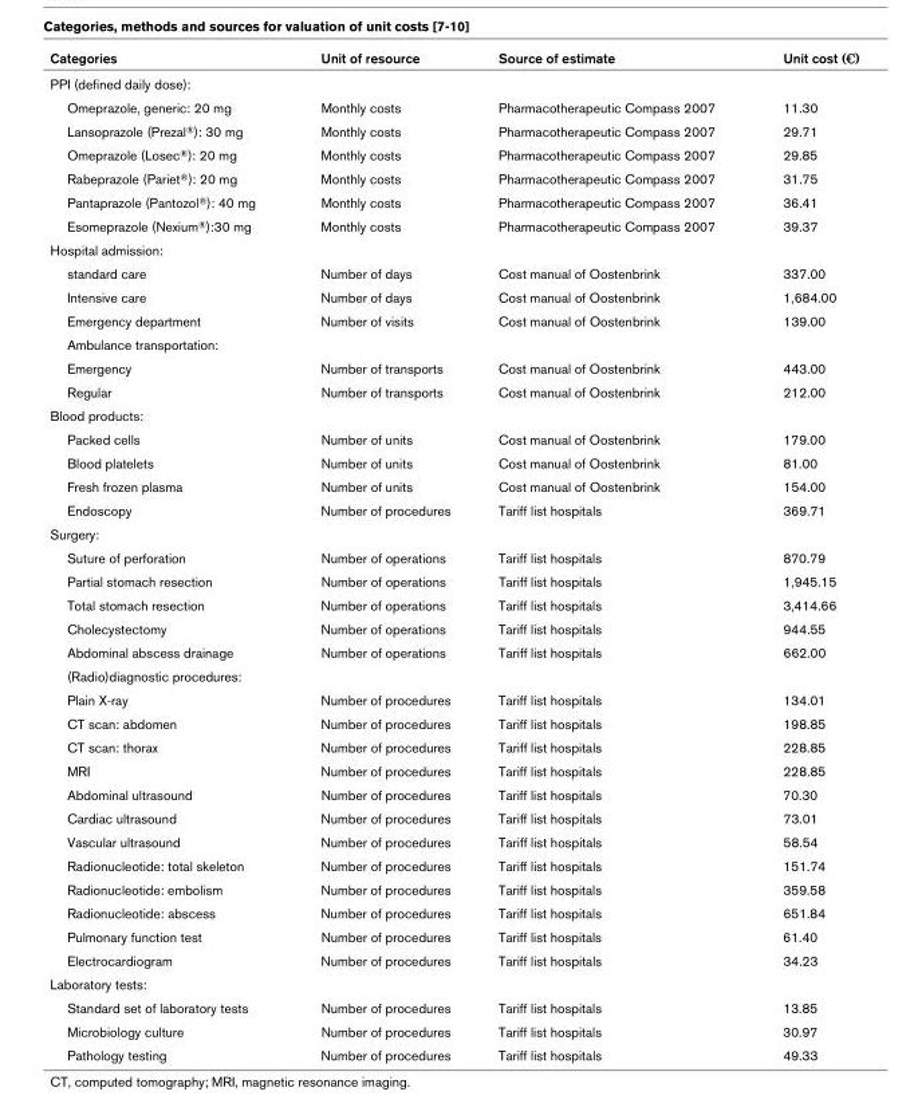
<table><thead><tr><td>Categories</td><td>Unit of resource</td><td>Source of estimate</td><td>Unit cost (€)</td></tr></thead><tbody><tr><td colspan="4">PPI (defined daily dose):</td></tr><tr><td>Omeprazole, generic: 20 mg</td><td>Monthly costs</td><td>Pharmacotherapeutic Compass 2007</td><td>11.30</td></tr><tr><td>Lansoprazole (Prezal<sup>®</sup>): 30 mg</td><td>Monthly costs</td><td>Pharmacotherapeutic Compass 2007</td><td>29.71</td></tr><tr><td>Omeprazole (Losec<sup>®</sup>): 20 mg</td><td>Monthly costs</td><td>Pharmacotherapeutic Compass 2007</td><td>29.85</td></tr><tr><td>Rabeprazole (Pariet<sup>®</sup>): 20 mg</td><td>Monthly costs</td><td>Pharmacotherapeutic Compass 2007</td><td>31.75</td></tr><tr><td>Pantaprazole (Pantozol<sup>®</sup>): 40 mg</td><td>Monthly costs</td><td>Pharmacotherapeutic Compass 2007</td><td>36.41</td></tr><tr><td>Esomeprazole (Nexium<sup>®</sup>):30 mg</td><td>Monthly costs</td><td>Pharmacotherapeutic Compass 2007</td><td>39.37</td></tr><tr><td colspan="4">Hospital admission:</td></tr><tr><td>standard care</td><td>Number of days</td><td>Cost manual of Oostenbrink</td><td>337.00</td></tr><tr><td>Intensive care</td><td>Number of days</td><td>Cost manual of Oostenbrink</td><td>1,684.00</td></tr><tr><td>Emergency department</td><td>Number of visits</td><td>Cost manual of Oostenbrink</td><td>139.00</td></tr><tr><td colspan="4">Ambulance transportation:</td></tr><tr><td>Emergency</td><td>Number of transports</td><td>Cost manual of Oostenbrink</td><td>443.00</td></tr><tr><td>Regular</td><td>Number of transports</td><td>Cost manual of Oostenbrink</td><td>212.00</td></tr><tr><td colspan="4">Blood products:</td></tr><tr><td>Packed cells</td><td>Number of units</td><td>Cost manual of Oostenbrink</td><td>179.00</td></tr><tr><td>Blood platelets</td><td>Number of units</td><td>Cost manual of Oostenbrink</td><td>81.00</td></tr><tr><td>Fresh frozen plasma</td><td>Number of units</td><td>Cost manual of Oostenbrink</td><td>154.00</td></tr><tr><td>Endoscopy</td><td>Number of procedures</td><td>Tariff list hospitals</td><td>369.71</td></tr><tr><td colspan="4">Surgery:</td></tr><tr><td>Suture of perforation</td><td>Number of operations</td><td>Tariff list hospitals</td><td>870.79</td></tr><tr><td>Partial stomach resection</td><td>Number of operations</td><td>Tariff list hospitals</td><td>1,945.15</td></tr><tr><td>Total stomach resection</td><td>Number of operations</td><td>Tariff list hospitals</td><td>3,414.66</td></tr><tr><td>Cholecystectomy</td><td>Number of operations</td><td>Tariff list hospitals</td><td>944.55</td></tr><tr><td>Abdominal abscess drainage</td><td>Number of operations</td><td>Tariff list hospitals</td><td>662.00</td></tr><tr><td colspan="4">(Radio)diagnostic procedures:</td></tr><tr><td>Plain X-ray</td><td>Number of procedures</td><td>Tariff list hospitals</td><td>134.01</td></tr><tr><td>CT scan: abdomen</td><td>Number of procedures</td><td>Tariff list hospitals</td><td>198.85</td></tr><tr><td>CT scan: thorax</td><td>Number of procedures</td><td>Tariff list hospitals</td><td>228.85</td></tr><tr><td>MRI</td><td>Number of procedures</td><td>Tariff list hospitals</td><td>228.85</td></tr><tr><td>Abdominal ultrasound</td><td>Number of procedures</td><td>Tariff list hospitals</td><td>70.30</td></tr><tr><td>Cardiac ultrasound</td><td>Number of procedures</td><td>Tariff list hospitals</td><td>73.01</td></tr><tr><td>Vascular ultrasound</td><td>Number of procedures</td><td>Tariff list hospitals</td><td>58.54</td></tr><tr><td>Radionucleotide: total skeleton</td><td>Number of procedures</td><td>Tariff list hospitals</td><td>151.74</td></tr><tr><td>Radionucleotide: embolism</td><td>Number of procedures</td><td>Tariff list hospitals</td><td>359.58</td></tr><tr><td>Radionucleotide: abscess</td><td>Number of procedures</td><td>Tariff list hospitals</td><td>651.84</td></tr><tr><td>Pulmonary function test</td><td>Number of procedures</td><td>Tariff list hospitals</td><td>61.40</td></tr><tr><td>Electrocardiogram</td><td>Number of procedures</td><td>Tariff list hospitals</td><td>34.23</td></tr><tr><td colspan="4">Laboratory tests:</td></tr><tr><td>Standard set of laboratory tests</td><td>Number of procedures</td><td>Tariff list hospitals</td><td>13.85</td></tr><tr><td>Microbiology culture</td><td>Number of procedures</td><td>Tariff list hospitals</td><td>30.97</td></tr><tr><td>Pathology testing</td><td>Number of procedures</td><td>Tariff list hospitals</td><td>49.33</td></tr></tbody></table>